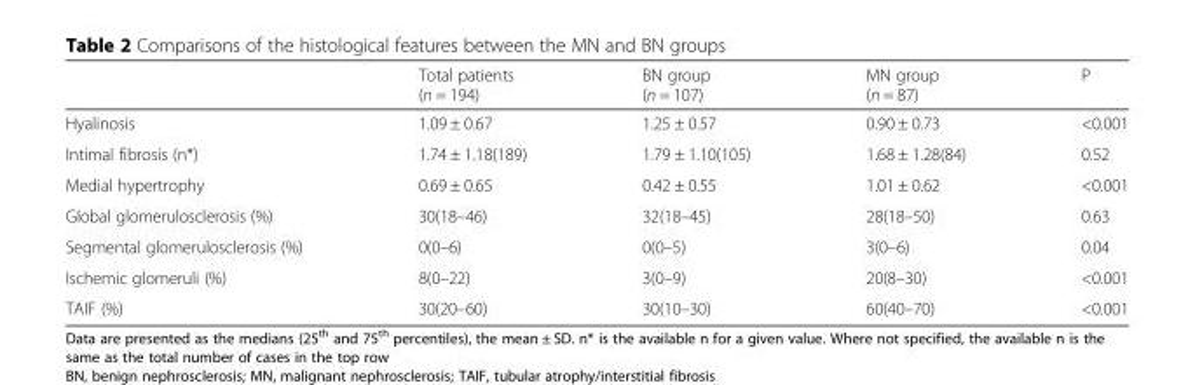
<table><thead><tr><td></td><td>Total patients (n = 194)</td><td>BN group (n = 107)</td><td>MN group (n = 87)</td><td>P</td></tr></thead><tbody><tr><td>Hyalinosis</td><td>1.09 ± 0.67</td><td>1.25 ± 0.57</td><td>0.90 ± 0.73</td><td>&lt;0.001</td></tr><tr><td>Intimal fibrosis (n*)</td><td>1.74 ± 1.18(189)</td><td>1.79 ± 1.10(105)</td><td>1.68 ± 1.28(84)</td><td>0.52</td></tr><tr><td>Medial hypertrophy</td><td>0.69 ± 0.65</td><td>0.42 ± 0.55</td><td>1.01 ± 0.62</td><td>&lt;0.001</td></tr><tr><td>Global glomerulosclerosis (%)</td><td>30(18–46)</td><td>32(18–45)</td><td>28(18–50)</td><td>0.63</td></tr><tr><td>Segmental glomerulosclerosis (%)</td><td>0(0–6)</td><td>0(0–5)</td><td>3(0–6)</td><td>0.04</td></tr><tr><td>Ischemic glomeruli (%)</td><td>8(0–22)</td><td>3(0–9)</td><td>20(8–30)</td><td>&lt;0.001</td></tr><tr><td>TAIF (%)</td><td>30(20–60)</td><td>30(10–30)</td><td>60(40–70)</td><td>&lt;0.001</td></tr></tbody></table>